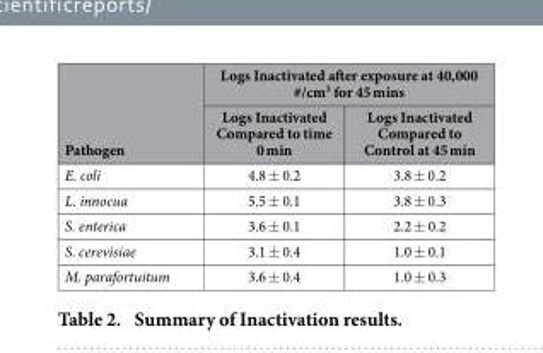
<table><thead><tr><td rowspan="2">Pathogen</td><td colspan="2">Logs Inactivated after exposure at 40,000 #/cm<sup>3</sup> for 45 mins</td></tr><tr><td>Logs Inactivated Compared to time 0 min</td><td>Logs Inactivated Compared to Control at 45 min</td></tr></thead><tbody><tr><td>E. coli</td><td>4.8 ± 0.2</td><td>3.8 ± 0.2</td></tr><tr><td>L. innocua</td><td>5.5 ± 0.1</td><td>3.8 ± 0.3</td></tr><tr><td>S. enterica</td><td>3.6 ± 0.1</td><td>2.2 ± 0.2</td></tr><tr><td>S. cerevisiae</td><td>3.1 ± 0.4</td><td>1.0 ± 0.1</td></tr><tr><td>M. parafortuitum</td><td>3.6 ± 0.4</td><td>1.0 ± 0.3</td></tr></tbody></table>